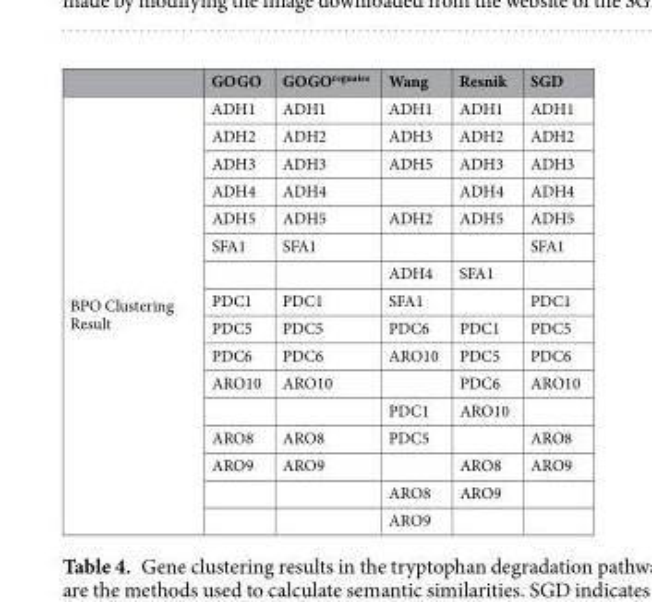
<table><thead><tr><td></td><td>GOGO</td><td>GOGO<sup>reguates</sup></td><td>Wang</td><td>Resnik</td><td>SGD</td></tr></thead><tbody><tr><td rowspan="16">BPO Clustering Result</td><td>ADH1</td><td>ADH1</td><td>ADH1</td><td>ADH1</td><td>ADH1</td></tr><tr><td>ADH2</td><td>ADH2</td><td>ADH3</td><td>ADH2</td><td>ADH2</td></tr><tr><td>ADH3</td><td>ADH3</td><td>ADH5</td><td>ADH3</td><td>ADH3</td></tr><tr><td>ADH4</td><td>ADH4</td><td></td><td>ADH4</td><td>ADH4</td></tr><tr><td>ADH5</td><td>ADH5</td><td>ADH2</td><td>ADH5</td><td>ADH5</td></tr><tr><td>SFA1</td><td>SFA1</td><td></td><td></td><td>SFA1</td></tr><tr><td></td><td></td><td>ADH4</td><td>SFA1</td><td></td></tr><tr><td>PDC1</td><td>PDC1</td><td>SFA1</td><td></td><td>PDC1</td></tr><tr><td>PDC5</td><td>PDC5</td><td>PDC6</td><td>PDC1</td><td>PDC5</td></tr><tr><td>PDC6</td><td>PDC6</td><td>ARO10</td><td>PDC5</td><td>PDC6</td></tr><tr><td>ARO10</td><td>ARO10</td><td></td><td>PDC6</td><td>ARO10</td></tr><tr><td></td><td></td><td>PDC1</td><td>ARO10</td><td></td></tr><tr><td>ARO8</td><td>ARO8</td><td>PDC5</td><td></td><td>ARO8</td></tr><tr><td>ARO9</td><td>ARO9</td><td></td><td>ARO8</td><td>ARO9</td></tr><tr><td></td><td></td><td>ARO8</td><td>ARO9</td><td></td></tr><tr><td></td><td></td><td>ARO9</td><td></td><td></td></tr></tbody></table>